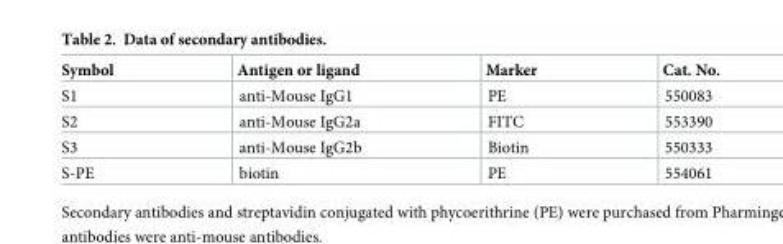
<table><thead><tr><td>Symbol</td><td>Antigen or ligand</td><td>Marker</td><td>Cat. No.</td></tr></thead><tbody><tr><td>S1</td><td>anti-Mouse IgG1</td><td>PE</td><td>550083</td></tr><tr><td>S2</td><td>anti-Mouse IgG2a</td><td>FITC</td><td>553390</td></tr><tr><td>S3</td><td>anti-Mouse IgG2b</td><td>Biotin</td><td>550333</td></tr><tr><td>S-PE</td><td>biotin</td><td>PE</td><td>554061</td></tr></tbody></table>